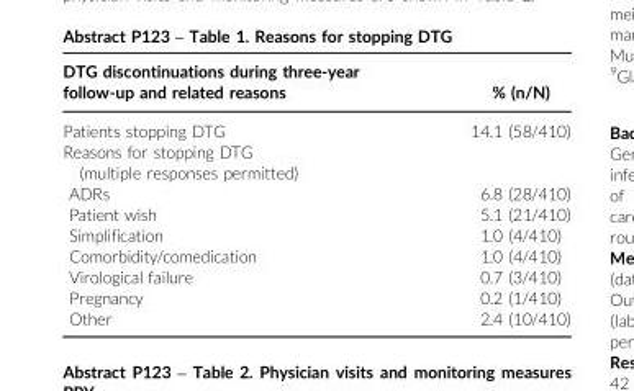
<table><thead><tr><td>DTG discontinuations during three-year follow-up and related reasons</td><td>% (n/N)</td></tr></thead><tbody><tr><td>Patients stopping DTG</td><td>14.1 (58/410)</td></tr><tr><td colspan="2">Reasons for stopping DTG (multiple responses permitted)</td></tr><tr><td>ADRs</td><td>6.8 (28/410)</td></tr><tr><td>Patient wish</td><td>5.1 (21/410)</td></tr><tr><td>Simplification</td><td>1.0 (4/410)</td></tr><tr><td>Comorbidity/comedication</td><td>1.0 (4/410)</td></tr><tr><td>Virological failure</td><td>0.7 (3/410)</td></tr><tr><td>Pregnancy</td><td>0.2 (1/410)</td></tr><tr><td>Other</td><td>2.4 (10/410)</td></tr></tbody></table>